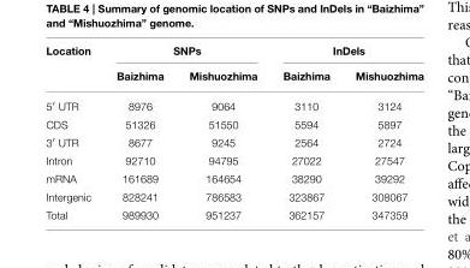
<table><thead><tr><td rowspan="2">Location</td><td colspan="2">SNPs</td><td colspan="2">InDels</td></tr><tr><td>Baizhima</td><td>Mishuozhima</td><td>Baizhima</td><td>Mishuozhima</td></tr></thead><tbody><tr><td>5′ UTR</td><td>8976</td><td>9064</td><td>3110</td><td>3124</td></tr><tr><td>CDS</td><td>51326</td><td>51550</td><td>5594</td><td>5897</td></tr><tr><td>3′ UTR</td><td>8677</td><td>9245</td><td>2564</td><td>2724</td></tr><tr><td>Intron</td><td>92710</td><td>94795</td><td>27022</td><td>27547</td></tr><tr><td>mRNA</td><td>161689</td><td>164654</td><td>38290</td><td>39292</td></tr><tr><td>Intergenic</td><td>828241</td><td>786583</td><td>323867</td><td>308067</td></tr><tr><td>Total</td><td>989930</td><td>951237</td><td>362157</td><td>347359</td></tr></tbody></table>